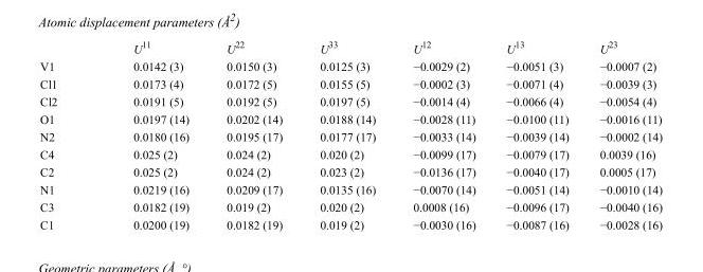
<table><thead><tr><td></td><td>U<sup>11</sup></td><td>U<sup>22</sup></td><td>U<sup>33</sup></td><td>U<sup>12</sup></td><td>U<sup>13</sup></td><td>U<sup>23</sup></td></tr></thead><tbody><tr><td>V1</td><td>0.0142 (3)</td><td>0.0150 (3)</td><td>0.0125 (3)</td><td>−0.0029 (2)</td><td>−0.0051 (3)</td><td>−0.0007 (2)</td></tr><tr><td>Cl1</td><td>0.0173 (4)</td><td>0.0172 (5)</td><td>0.0155 (5)</td><td>−0.0002 (3)</td><td>−0.0071 (4)</td><td>−0.0039 (3)</td></tr><tr><td>Cl2</td><td>0.0191 (5)</td><td>0.0192 (5)</td><td>0.0197 (5)</td><td>−0.0014 (4)</td><td>−0.0066 (4)</td><td>−0.0054 (4)</td></tr><tr><td>O1</td><td>0.0197 (14)</td><td>0.0202 (14)</td><td>0.0188 (14)</td><td>−0.0028 (11)</td><td>−0.0100 (11)</td><td>−0.0016 (11)</td></tr><tr><td>N2</td><td>0.0180 (16)</td><td>0.0195 (17)</td><td>0.0177 (17)</td><td>−0.0033 (14)</td><td>−0.0039 (14)</td><td>−0.0002 (14)</td></tr><tr><td>C4</td><td>0.025 (2)</td><td>0.024 (2)</td><td>0.020 (2)</td><td>−0.0099 (17)</td><td>−0.0079 (17)</td><td>0.0039 (16)</td></tr><tr><td>C2</td><td>0.025 (2)</td><td>0.024 (2)</td><td>0.023 (2)</td><td>−0.0136 (17)</td><td>−0.0040 (17)</td><td>0.0005 (17)</td></tr><tr><td>N1</td><td>0.0219 (16)</td><td>0.0209 (17)</td><td>0.0135 (16)</td><td>−0.0070 (14)</td><td>−0.0051 (14)</td><td>−0.0010 (14)</td></tr><tr><td>C3</td><td>0.0182 (19)</td><td>0.019 (2)</td><td>0.020 (2)</td><td>0.0008 (16)</td><td>−0.0096 (17)</td><td>−0.0040 (16)</td></tr><tr><td>C1</td><td>0.0200 (19)</td><td>0.0182 (19)</td><td>0.019 (2)</td><td>−0.0030 (16)</td><td>−0.0087 (16)</td><td>−0.0028 (16)</td></tr></tbody></table>